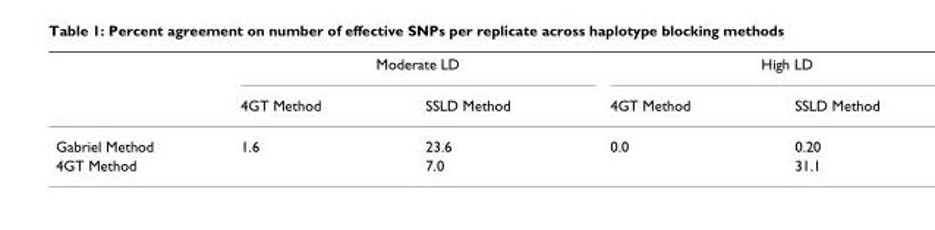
<table><thead><tr><td rowspan="2"></td><td colspan="2">Moderate LD</td><td colspan="2">High LD</td></tr><tr><td>4GT Method</td><td>SSLD Method</td><td>4GT Method</td><td>SSLD Method</td></tr></thead><tbody><tr><td>Gabriel Method</td><td>1.6</td><td>23.6</td><td>0.0</td><td>0.20</td></tr><tr><td>4GT Method</td><td></td><td>7.0</td><td></td><td>31.1</td></tr></tbody></table>